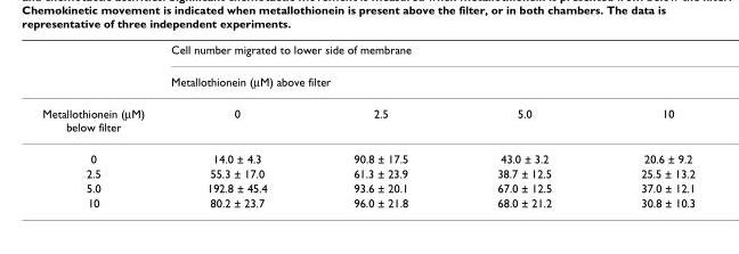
<table><thead><tr><td rowspan="3">Metallothionein (µM) below filter</td><td rowspan="2" colspan="4">Cell number migrated to lower side of membrane Metallothionein (µM) above filter</td></tr><tr></tr><tr><td>0</td><td>2.5</td><td>5.0</td><td>10</td></tr></thead><tbody><tr><td>0</td><td>14.0 ± 4.3</td><td>90.8 ± 17.5</td><td>43.0 ± 3.2</td><td>20.6 ± 9.2</td></tr><tr><td>2.5</td><td>55.3 ± 17.0</td><td>61.3 ± 23.9</td><td>38.7 ± 12.5</td><td>25.5 ± 13.2</td></tr><tr><td>5.0</td><td>192.8 ± 45.4</td><td>93.6 ± 20.1</td><td>67.0 ± 12.5</td><td>37.0 ± 12.1</td></tr><tr><td>10</td><td>80.2 ± 23.7</td><td>96.0 ± 21.8</td><td>68.0 ± 21.2</td><td>30.8 ± 10.3</td></tr></tbody></table>